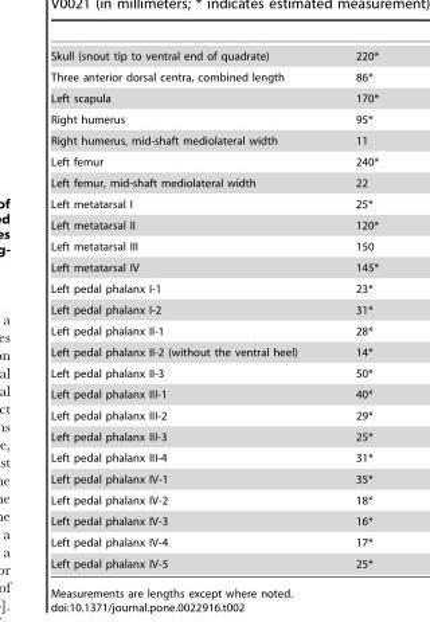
<table><tbody><tr><td>Skull (snout tip to ventral end of quadrate)</td><td>220*</td></tr><tr><td>Three anterior dorsal centra, combined length</td><td>86*</td></tr><tr><td>Left scapula</td><td>170*</td></tr><tr><td>Right humerus</td><td>95*</td></tr><tr><td>Right humerus, mid-shaft mediolateral width</td><td>11</td></tr><tr><td>Left femur</td><td>240*</td></tr><tr><td>Left femur, mid-shaft mediolateral width</td><td>22</td></tr><tr><td>Left metatarsal I</td><td>25*</td></tr><tr><td>Left metatarsal II</td><td>120*</td></tr><tr><td>Left metatarsal III</td><td>150</td></tr><tr><td>Left metatarsal IV</td><td>145*</td></tr><tr><td>Left pedal phalanx I-1</td><td>23*</td></tr><tr><td>Left pedal phalanx I-2</td><td>31*</td></tr><tr><td>Left pedal phalanx II-1</td><td>28*</td></tr><tr><td>Left pedal phalanx II-2 (without the ventral heel)</td><td>14*</td></tr><tr><td>Left pedal phalanx II-3</td><td>50*</td></tr><tr><td>Left pedal phalanx III-1</td><td>40*</td></tr><tr><td>Left pedal phalanx III-2</td><td>29*</td></tr><tr><td>Left pedal phalanx III-3</td><td>25*</td></tr><tr><td>Left pedal phalanx III-4</td><td>31*</td></tr><tr><td>Left pedal phalanx IV-1</td><td>35*</td></tr><tr><td>Left pedal phalanx IV-2</td><td>18*</td></tr><tr><td>Left pedal phalanx IV-3</td><td>16*</td></tr><tr><td>Left pedal phalanx IV-4</td><td>17*</td></tr><tr><td>Left pedal phalanx IV-5</td><td>25*</td></tr></tbody></table>